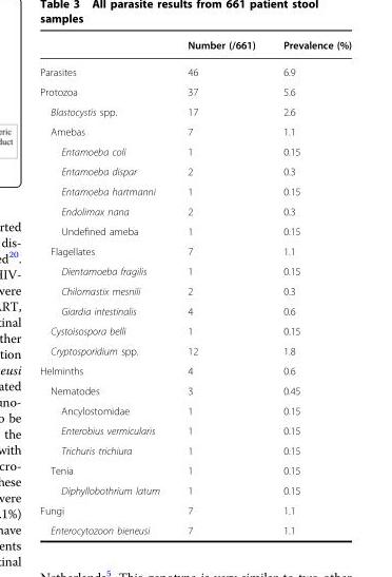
<table><thead><tr><td></td><td>Number (/661)</td><td>Prevalence (%)</td></tr></thead><tbody><tr><td>Parasites</td><td>46</td><td>6.9</td></tr><tr><td>Protozoa</td><td>37</td><td>5.6</td></tr><tr><td>Blastocystis spp.</td><td>17</td><td>2.6</td></tr><tr><td>Amebas</td><td>7</td><td>1.1</td></tr><tr><td>Entamoeba coli</td><td>1</td><td>0.15</td></tr><tr><td>Entamoeba dispar</td><td>2</td><td>0.3</td></tr><tr><td>Entamoeba hartmanni</td><td>1</td><td>0.15</td></tr><tr><td>Endolimax nana</td><td>2</td><td>0.3</td></tr><tr><td>Undefined ameba</td><td>1</td><td>0.15</td></tr><tr><td>Flagellates</td><td>7</td><td>1.1</td></tr><tr><td>Dientamoeba fragilis</td><td>1</td><td>0.15</td></tr><tr><td>Chilomastix mesnili</td><td>2</td><td>0.3</td></tr><tr><td>Giardia intestinalis</td><td>4</td><td>0.6</td></tr><tr><td>Cystoisospora belli</td><td>1</td><td>0.15</td></tr><tr><td>Cryptosporidium spp.</td><td>12</td><td>1.8</td></tr><tr><td>Helminths</td><td>4</td><td>0.6</td></tr><tr><td>Nematodes</td><td>3</td><td>0.45</td></tr><tr><td>Ancylostomidae</td><td>1</td><td>0.15</td></tr><tr><td>Enterobius vermicularis</td><td>1</td><td>0.15</td></tr><tr><td>Trichuris trichiura</td><td>1</td><td>0.15</td></tr><tr><td>Tenia</td><td>1</td><td>0.15</td></tr><tr><td>Diphyllobothrium latum</td><td>1</td><td>0.15</td></tr><tr><td>Fungi</td><td>7</td><td>1.1</td></tr><tr><td>Enterocytozoon bieneusi</td><td>7</td><td>1.1</td></tr></tbody></table>